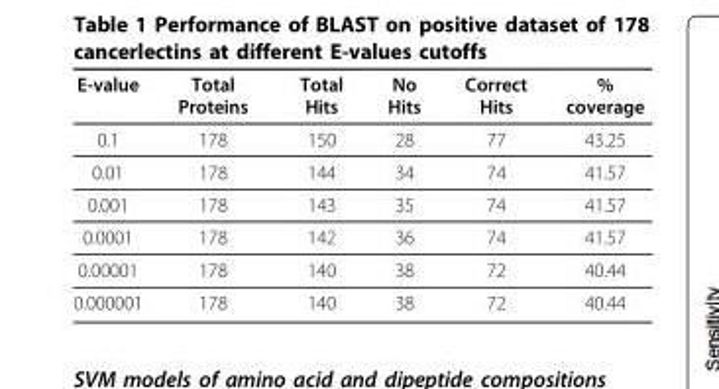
<table><thead><tr><td>E-value</td><td>Total Proteins</td><td>Total Hits</td><td>No Hits</td><td>Correct Hits</td><td>% coverage</td></tr></thead><tbody><tr><td>0.1</td><td>178</td><td>150</td><td>28</td><td>77</td><td>43.25</td></tr><tr><td>0.01</td><td>178</td><td>144</td><td>34</td><td>74</td><td>41.57</td></tr><tr><td>0.001</td><td>178</td><td>143</td><td>35</td><td>74</td><td>41.57</td></tr><tr><td>0.0001</td><td>178</td><td>142</td><td>36</td><td>74</td><td>41.57</td></tr><tr><td>0.00001</td><td>178</td><td>140</td><td>38</td><td>72</td><td>40.44</td></tr><tr><td>0.000001</td><td>178</td><td>140</td><td>38</td><td>72</td><td>40.44</td></tr></tbody></table>